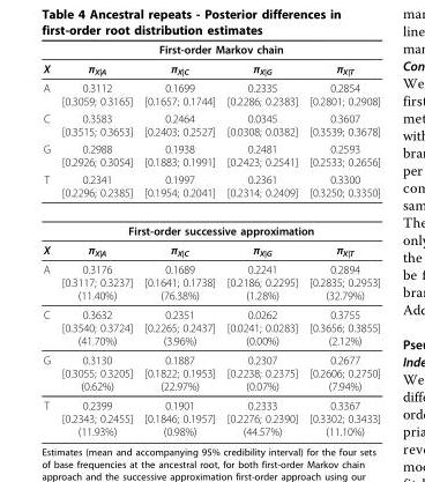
<table><thead><tr><td rowspan="2">X</td><td colspan="4">First-order Markov chain</td></tr><tr><td>πX|A</td><td>πX|C</td><td>πX|G</td><td>πX|T</td></tr></thead><tbody><tr><td>A</td><td>0.3112 [0.3059; 0.3165]</td><td>0.1699 [0.1657; 0.1744]</td><td>0.2335 [0.2286; 0.2383]</td><td>0.2854 [0.2801; 0.2908]</td></tr><tr><td>C</td><td>0.3583 [0.3515; 0.3653]</td><td>0.2464 [0.2403; 0.2527]</td><td>0.0345 [0.0308; 0.0382]</td><td>0.3607 [0.3539; 0.3678]</td></tr><tr><td>G</td><td>0.2988 [0.2926; 0.3054]</td><td>0.1938 [0.1883; 0.1991]</td><td>0.2481 [0.2423; 0.2541]</td><td>0.2593 [0.2533; 0.2656]</td></tr><tr><td rowspan="2">T</td><td>0.2341 [0.2296; 0.2385]</td><td>0.1997 [0.1954; 0.2041]</td><td>0.2361 [0.2314; 0.2409]</td><td>0.3300 [0.3250; 0.3350]</td></tr><tr><td colspan="4">First-order successive approximation</td></tr><tr><td>X</td><td>πX|A</td><td>πX|C</td><td>πX|G</td><td>πX|T</td></tr><tr><td>A</td><td>0.3176 [0.3117; 0.3237] (11.40%)</td><td>0.1689 [0.1641; 0.1738] (76.38%)</td><td>0.2241 [0.2186; 0.2295] (1.28%)</td><td>0.2894 [0.2835; 0.2953] (32.79%)</td></tr><tr><td>C</td><td>0.3632 [0.3540; 0.3724] (41.70%)</td><td>0.2351 [0.2265; 0.2437] (3.96%)</td><td>0.0262 [0.0241; 0.0283] (0.00%)</td><td>0.3755 [0.3656; 0.3855] (2.12%)</td></tr><tr><td>G</td><td>0.3130 [0.3055; 0.3205] (0.62%)</td><td>0.1887 [0.1822; 0.1953] (22.97%)</td><td>0.2307 [0.2238; 0.2375] (0.07%)</td><td>0.2677 [0.2606; 0.2750] (7.94%)</td></tr><tr><td>T</td><td>0.2399 [0.2343; 0.2455] (11.93%)</td><td>0.1901 [0.1846; 0.1957] (0.98%)</td><td>0.2333 [0.2276; 0.2390] (44.57%)</td><td>0.3367 [0.3302; 0.3433] (11.10%)</td></tr></tbody></table>